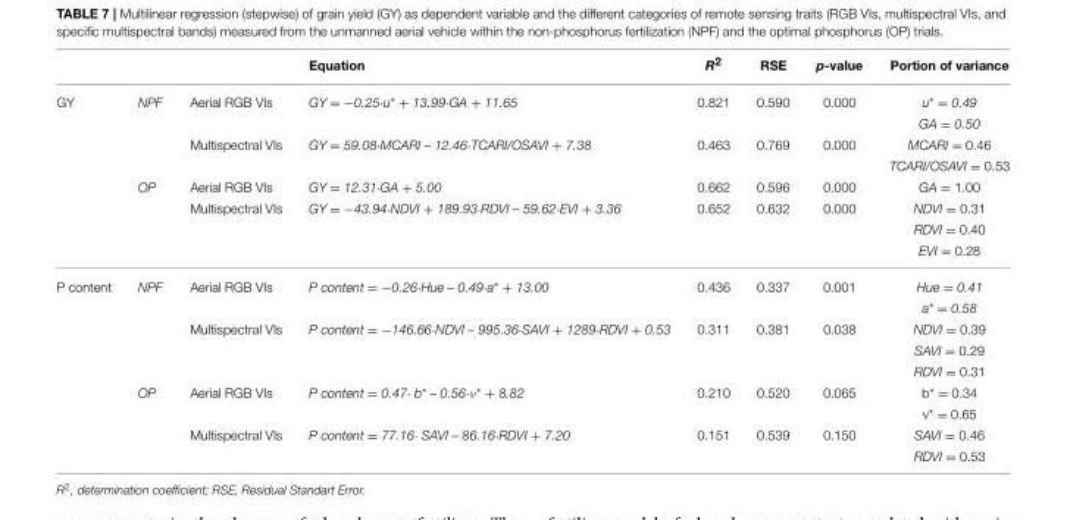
<table><thead><tr><td></td><td></td><td></td><td>Equation</td><td>R<sup>2</sup></td><td>RSE</td><td>p-value</td><td>Portion of variance</td></tr></thead><tbody><tr><td rowspan="8">GY</td><td>NPF</td><td>Aerial RGB VIs</td><td>GY = −0.25·u* + 13.99·GA + 11.65</td><td>0.821</td><td>0.590</td><td>0.000</td><td>u* = 0.49</td></tr><tr><td></td><td></td><td></td><td></td><td></td><td></td><td>GA = 0.50</td></tr><tr><td></td><td>Multispectral VIs</td><td>GY = 59.08·MCARI – 12.46·TCARI/OSAVI + 7.38</td><td>0.463</td><td>0.769</td><td>0.000</td><td>MCARI = 0.46</td></tr><tr><td></td><td></td><td></td><td></td><td></td><td></td><td>TCARI/OSAVI = 0.53</td></tr><tr><td>OP</td><td>Aerial RGB VIs</td><td>GY = 12.31·GA + 5.00</td><td>0.662</td><td>0.596</td><td>0.000</td><td>GA = 1.00</td></tr><tr><td></td><td>Multispectral VIs</td><td>GY = −43.94·NDVI + 189.93·RDVI – 59.62·EVI + 3.36</td><td>0.652</td><td>0.632</td><td>0.000</td><td>NDVI = 0.31</td></tr><tr><td></td><td></td><td></td><td></td><td></td><td></td><td>RDVI = 0.40</td></tr><tr><td></td><td></td><td></td><td></td><td></td><td></td><td>EVI = 0.28</td></tr><tr><td rowspan="9">P content</td><td>NPF</td><td>Aerial RGB VIs</td><td>P content = −0.26·Hue – 0.49·a* + 13.00</td><td>0.436</td><td>0.337</td><td>0.001</td><td>Hue = 0.41</td></tr><tr><td></td><td></td><td></td><td></td><td></td><td></td><td>a* = 0.58</td></tr><tr><td></td><td>Multispectral VIs</td><td>P content = −146.66·NDVI – 995.36·SAVI + 1289·RDVI + 0.53</td><td>0.311</td><td>0.381</td><td>0.038</td><td>NDVI = 0.39</td></tr><tr><td></td><td></td><td></td><td></td><td></td><td></td><td>SAVI = 0.29</td></tr><tr><td></td><td></td><td></td><td></td><td></td><td></td><td>RDVI = 0.31</td></tr><tr><td>OP</td><td>Aerial RGB VIs</td><td>P content = 0.47· b* – 0.56·ν* + 8.82</td><td>0.210</td><td>0.520</td><td>0.065</td><td>b* = 0.34</td></tr><tr><td></td><td></td><td></td><td></td><td></td><td></td><td>v* = 0.65</td></tr><tr><td></td><td>Multispectral VIs</td><td>P content = 77.16· SAVI – 86.16·RDVI + 7.20</td><td>0.151</td><td>0.539</td><td>0.150</td><td>SAVI = 0.46</td></tr><tr><td></td><td></td><td></td><td></td><td></td><td></td><td>RDVI = 0.53</td></tr></tbody></table>